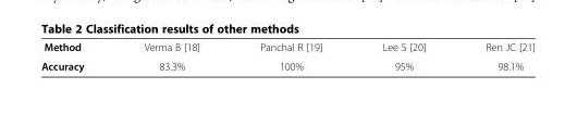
<table><tbody><tr><td>Method</td><td>Verma B [18]</td><td>Panchal R [19]</td><td>Lee S [20]</td><td>Ren JC [21]</td></tr><tr><td>Accuracy</td><td>83.3%</td><td>100%</td><td>95%</td><td>98.1%</td></tr></tbody></table>